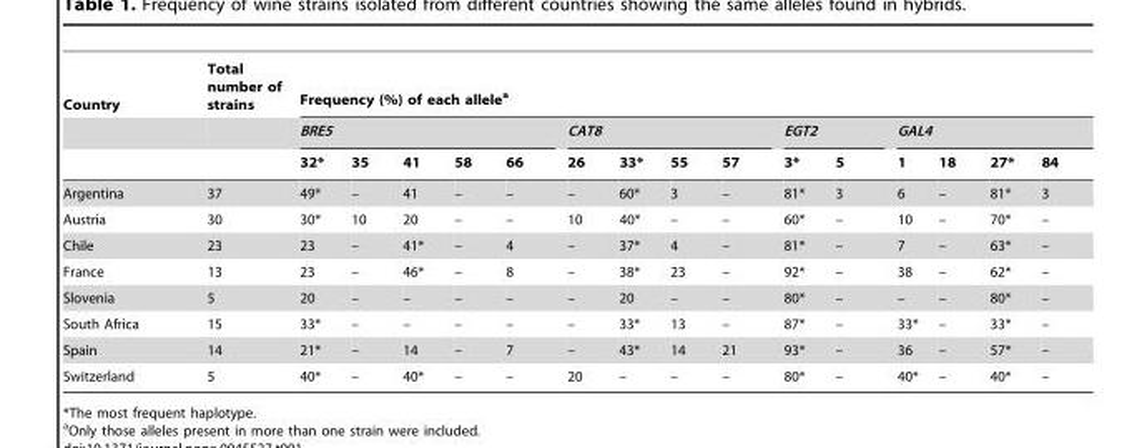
<table><thead><tr><td rowspan="3">Country</td><td rowspan="3">Total number of strains</td><td colspan="15">Frequency (%) of each allele<sup>a</sup></td></tr><tr><td colspan="5">BRE5</td><td colspan="4">CAT8</td><td colspan="2">EGT2</td><td colspan="4">GAL4</td></tr><tr><td>32*</td><td>35</td><td>41</td><td>58</td><td>66</td><td>26</td><td>33*</td><td>55</td><td>57</td><td>3*</td><td>5</td><td>1</td><td>18</td><td>27*</td><td>84</td></tr></thead><tbody><tr><td>Argentina</td><td>37</td><td>49*</td><td>–</td><td>41</td><td>–</td><td>–</td><td>–</td><td>60*</td><td>3</td><td>–</td><td>81*</td><td>3</td><td>6</td><td>–</td><td>81*</td><td>3</td></tr><tr><td>Austria</td><td>30</td><td>30*</td><td>10</td><td>20</td><td>–</td><td>–</td><td>10</td><td>40*</td><td>–</td><td>–</td><td>60*</td><td>–</td><td>10</td><td>–</td><td>70*</td><td>–</td></tr><tr><td>Chile</td><td>23</td><td>23</td><td>–</td><td>41*</td><td>–</td><td>4</td><td>–</td><td>37*</td><td>4</td><td>–</td><td>81*</td><td>–</td><td>7</td><td>–</td><td>63*</td><td>–</td></tr><tr><td>France</td><td>13</td><td>23</td><td>–</td><td>46*</td><td>–</td><td>8</td><td>–</td><td>38*</td><td>23</td><td>–</td><td>92*</td><td>–</td><td>38</td><td>–</td><td>62*</td><td>–</td></tr><tr><td>Slovenia</td><td>5</td><td>20</td><td>–</td><td>–</td><td>–</td><td>–</td><td>–</td><td>20</td><td>–</td><td>–</td><td>80*</td><td>–</td><td>–</td><td>–</td><td>80*</td><td>–</td></tr><tr><td>South Africa</td><td>15</td><td>33*</td><td>–</td><td>–</td><td>–</td><td>–</td><td>–</td><td>33*</td><td>13</td><td>–</td><td>87*</td><td>–</td><td>33*</td><td>–</td><td>33*</td><td>–</td></tr><tr><td>Spain</td><td>14</td><td>21*</td><td>–</td><td>14</td><td>–</td><td>7</td><td>–</td><td>43*</td><td>14</td><td>21</td><td>93*</td><td>–</td><td>36</td><td>–</td><td>57*</td><td>–</td></tr><tr><td>Switzerland</td><td>5</td><td>40*</td><td>–</td><td>40*</td><td>–</td><td>–</td><td>20</td><td>–</td><td>–</td><td>–</td><td>80*</td><td>–</td><td>40*</td><td>–</td><td>40*</td><td>–</td></tr></tbody></table>